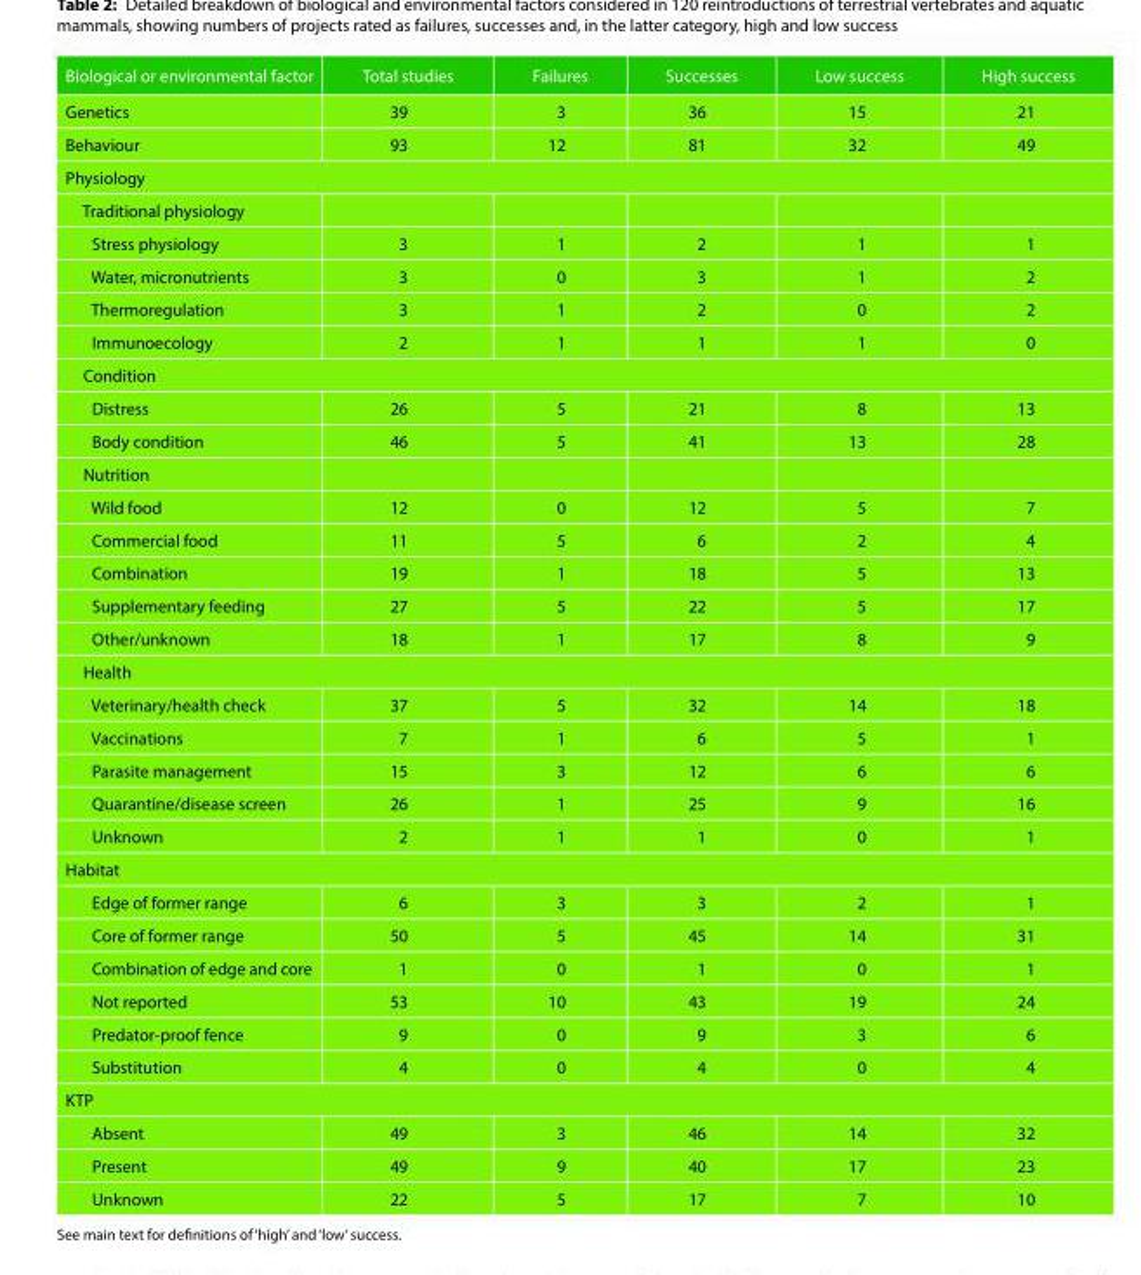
<table><thead><tr><td>Biological or environmental factor</td><td>Total studies</td><td>Failures</td><td>Successes</td><td>Low success</td><td>High success</td></tr></thead><tbody><tr><td>Genetics</td><td>39</td><td>3</td><td>36</td><td>15</td><td>21</td></tr><tr><td>Behaviour</td><td>93</td><td>12</td><td>81</td><td>32</td><td>49</td></tr><tr><td colspan="6">Physiology</td></tr><tr><td colspan="6">Traditional physiology</td></tr><tr><td>Stress physiology</td><td>3</td><td>1</td><td>2</td><td>1</td><td>1</td></tr><tr><td>Water, micronutrients</td><td>3</td><td>0</td><td>3</td><td>1</td><td>2</td></tr><tr><td>Thermoregulation</td><td>3</td><td>1</td><td>2</td><td>0</td><td>2</td></tr><tr><td>Immunoecology</td><td>2</td><td>1</td><td>1</td><td>1</td><td>0</td></tr><tr><td colspan="6">Condition</td></tr><tr><td>Distress</td><td>26</td><td>5</td><td>21</td><td>8</td><td>13</td></tr><tr><td>Body condition</td><td>46</td><td>5</td><td>41</td><td>13</td><td>28</td></tr><tr><td colspan="6">Nutrition</td></tr><tr><td>Wild food</td><td>12</td><td>0</td><td>12</td><td>5</td><td>7</td></tr><tr><td>Commercial food</td><td>11</td><td>5</td><td>6</td><td>2</td><td>4</td></tr><tr><td>Combination</td><td>19</td><td>1</td><td>18</td><td>5</td><td>13</td></tr><tr><td>Supplementary feeding</td><td>27</td><td>5</td><td>22</td><td>5</td><td>17</td></tr><tr><td>Other/unknown</td><td>18</td><td>1</td><td>17</td><td>8</td><td>9</td></tr><tr><td colspan="6">Health</td></tr><tr><td>Veterinary/health check</td><td>37</td><td>5</td><td>32</td><td>14</td><td>18</td></tr><tr><td>Vaccinations</td><td>7</td><td>1</td><td>6</td><td>5</td><td>1</td></tr><tr><td>Parasite management</td><td>15</td><td>3</td><td>12</td><td>6</td><td>6</td></tr><tr><td>Quarantine/disease screen</td><td>26</td><td>1</td><td>25</td><td>9</td><td>16</td></tr><tr><td>Unknown</td><td>2</td><td>1</td><td>1</td><td>0</td><td>1</td></tr><tr><td colspan="6">Habitat</td></tr><tr><td>Edge of former range</td><td>6</td><td>3</td><td>3</td><td>2</td><td>1</td></tr><tr><td>Core of former range</td><td>50</td><td>5</td><td>45</td><td>14</td><td>31</td></tr><tr><td>Combination of edge and core</td><td>1</td><td>0</td><td>1</td><td>0</td><td>1</td></tr><tr><td>Not reported</td><td>53</td><td>10</td><td>43</td><td>19</td><td>24</td></tr><tr><td>Predator-proof fence</td><td>9</td><td>0</td><td>9</td><td>3</td><td>6</td></tr><tr><td>Substitution</td><td>4</td><td>0</td><td>4</td><td>0</td><td>4</td></tr><tr><td colspan="6">KTP</td></tr><tr><td>Absent</td><td>49</td><td>3</td><td>46</td><td>14</td><td>32</td></tr><tr><td>Present</td><td>49</td><td>9</td><td>40</td><td>17</td><td>23</td></tr><tr><td>Unknown</td><td>22</td><td>5</td><td>17</td><td>7</td><td>10</td></tr></tbody></table>